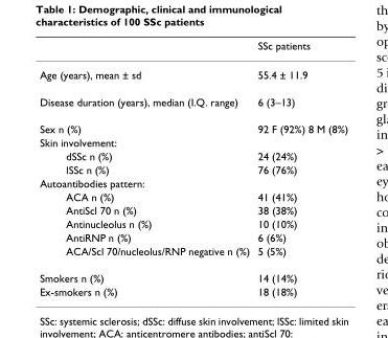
<table><thead><tr><td></td><td>SSc patients</td></tr></thead><tbody><tr><td>Age (years), mean ± sd</td><td>55.4 ± 11.9</td></tr><tr><td>Disease duration (years), median (I.Q. range)</td><td>6 (3–13)</td></tr><tr><td>Sex n (%)</td><td>92 F (92%) 8 M (8%)</td></tr><tr><td colspan="2">Skin involvement:</td></tr><tr><td>dSSc n (%)</td><td>24 (24%)</td></tr><tr><td>lSSc n (%)</td><td>76 (76%)</td></tr><tr><td colspan="2">Autoantibodies pattern:</td></tr><tr><td>ACA n (%)</td><td>41 (41%)</td></tr><tr><td>AntiScl 70 n (%)</td><td>38 (38%)</td></tr><tr><td>Antinucleolus n (%)</td><td>10 (10%)</td></tr><tr><td>AntiRNP n (%)</td><td>6 (6%)</td></tr><tr><td>ACA/Scl 70/nucleolus/RNP negative n (%)</td><td>5 (5%)</td></tr><tr><td>Smokers n (%)</td><td>14 (14%)</td></tr><tr><td>Ex-smokers n (%)</td><td>18 (18%)</td></tr></tbody></table>